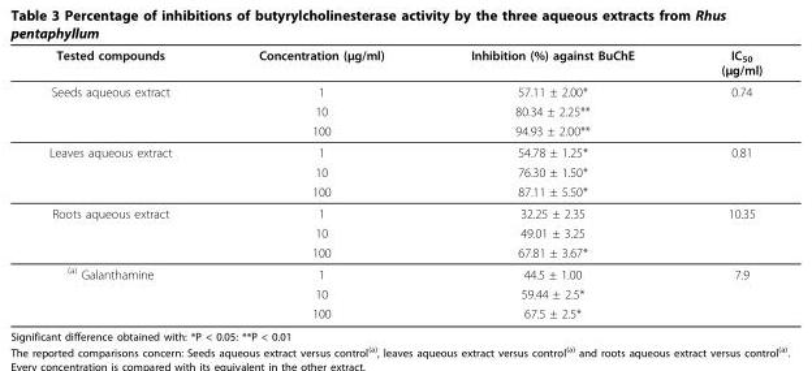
<table><thead><tr><td>Tested compounds</td><td>Concentration (μg/ml)</td><td>Inhibition (%) against BuChE</td><td>IC<sub>50</sub> (μg/ml)</td></tr></thead><tbody><tr><td rowspan="3">Seeds aqueous extract</td><td>1</td><td>57.11 ± 2.00*</td><td>0.74</td></tr><tr><td>10</td><td>80.34 ± 2.25**</td><td></td></tr><tr><td>100</td><td>94.93 ± 2.00**</td><td></td></tr><tr><td rowspan="3">Leaves aqueous extract</td><td>1</td><td>54.78 ± 1.25*</td><td>0.81</td></tr><tr><td>10</td><td>76.30 ± 1.50*</td><td></td></tr><tr><td>100</td><td>87.11 ± 5.50*</td><td></td></tr><tr><td rowspan="3">Roots aqueous extract</td><td>1</td><td>32.25 ± 2.35</td><td>10.35</td></tr><tr><td>10</td><td>49.01 ± 3.25</td><td></td></tr><tr><td>100</td><td>67.81 ± 3.67*</td><td></td></tr><tr><td rowspan="3"><sup>(a)</sup> Galanthamine</td><td>1</td><td>44.5 ± 1.00</td><td>7.9</td></tr><tr><td>10</td><td>59.44 ± 2.5*</td><td></td></tr><tr><td>100</td><td>67.5 ± 2.5*</td><td></td></tr></tbody></table>